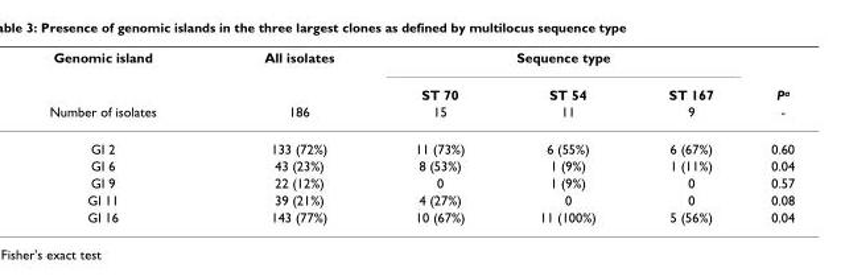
<table><thead><tr><td rowspan="3">Genomic island Number of isolates</td><td rowspan="3">All isolates 186</td><td colspan="3">Sequence type</td><td rowspan="3">P<sup>a</sup> -</td></tr><tr><td rowspan="2">ST 70 15</td><td rowspan="2">ST 54 11</td><td rowspan="2">ST 167 9</td></tr><tr></tr></thead><tbody><tr><td>GI 2</td><td>133 (72%)</td><td>11 (73%)</td><td>6 (55%)</td><td>6 (67%)</td><td>0.60</td></tr><tr><td>GI 6</td><td>43 (23%)</td><td>8 (53%)</td><td>1 (9%)</td><td>1 (11%)</td><td>0.04</td></tr><tr><td>GI 9</td><td>22 (12%)</td><td>0</td><td>1 (9%)</td><td>0</td><td>0.57</td></tr><tr><td>GI 11</td><td>39 (21%)</td><td>4 (27%)</td><td>0</td><td>0</td><td>0.08</td></tr><tr><td>GI 16</td><td>143 (77%)</td><td>10 (67%)</td><td>11 (100%)</td><td>5 (56%)</td><td>0.04</td></tr></tbody></table>